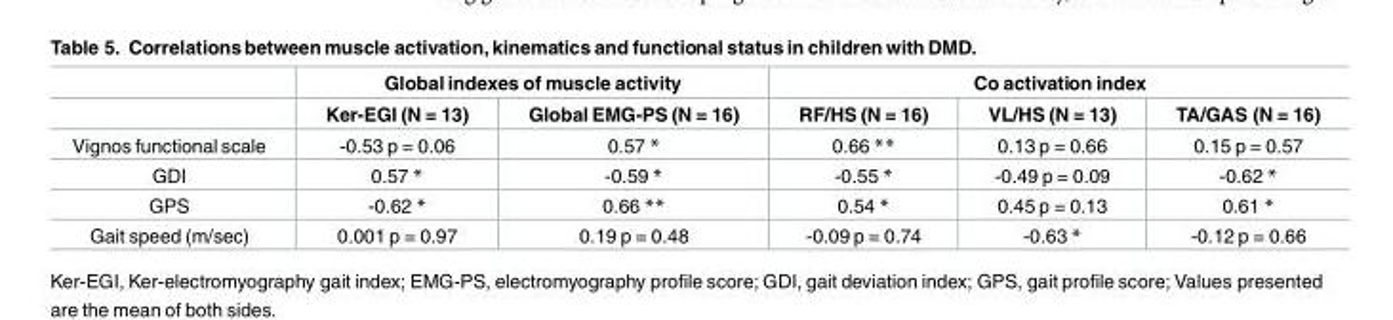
<table><thead><tr><td rowspan="2"></td><td colspan="2">Global indexes of muscle activity</td><td colspan="3">Co activation index</td></tr><tr><td>Ker-EGI (N = 13)</td><td>Global EMG-PS (N = 16)</td><td>RF/HS (N = 16)</td><td>VL/HS (N = 13)</td><td>TA/GAS (N = 16)</td></tr></thead><tbody><tr><td>Vignos functional scale</td><td>-0.53 p = 0.06</td><td>0.57 *</td><td>0.66 **</td><td>0.13 p = 0.66</td><td>0.15 p = 0.57</td></tr><tr><td>GDI</td><td>0.57 *</td><td>-0.59 *</td><td>-0.55 *</td><td>-0.49 p = 0.09</td><td>-0.62 *</td></tr><tr><td>GPS</td><td>-0.62 *</td><td>0.66 **</td><td>0.54 *</td><td>0.45 p = 0.13</td><td>0.61 *</td></tr><tr><td>Gait speed (m/sec)</td><td>0.001 p = 0.97</td><td>0.19 p = 0.48</td><td>-0.09 p = 0.74</td><td>-0.63 *</td><td>-0.12 p = 0.66</td></tr></tbody></table>